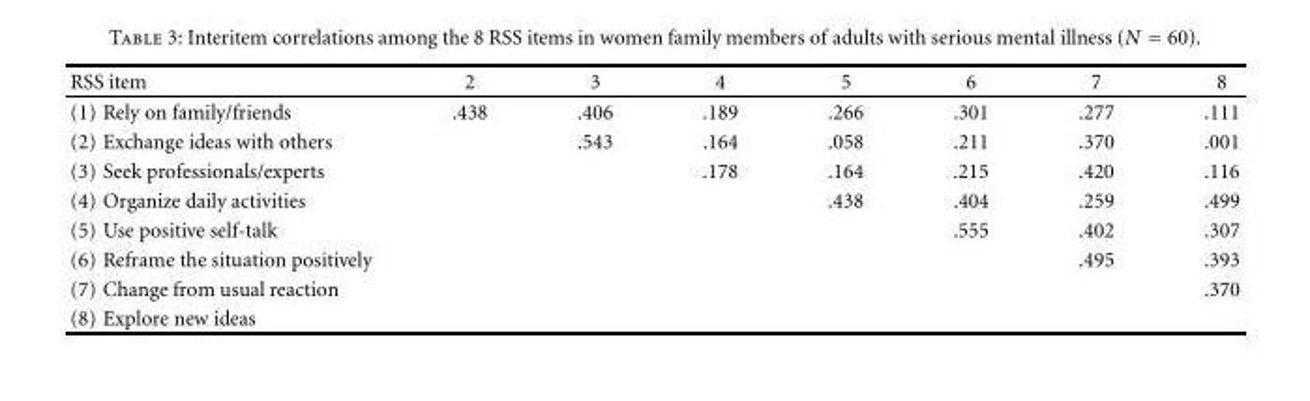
<table><thead><tr><td>RSS item</td><td>2</td><td>3</td><td>4</td><td>5</td><td>6</td><td>7</td><td>8</td></tr></thead><tbody><tr><td>(1) Rely on family/friends</td><td>.438</td><td>.406</td><td>.189</td><td>.266</td><td>.301</td><td>.277</td><td>.111</td></tr><tr><td>(2) Exchange ideas with others</td><td></td><td>.543</td><td>.164</td><td>.058</td><td>.211</td><td>.370</td><td>.001</td></tr><tr><td>(3) Seek professionals/experts</td><td></td><td></td><td>.178</td><td>.164</td><td>.215</td><td>.420</td><td>.116</td></tr><tr><td>(4) Organize daily activities</td><td></td><td></td><td></td><td>.438</td><td>.404</td><td>.259</td><td>.499</td></tr><tr><td>(5) Use positive self-talk</td><td></td><td></td><td></td><td></td><td>.555</td><td>.402</td><td>.307</td></tr><tr><td>(6) Reframe the situation positively</td><td></td><td></td><td></td><td></td><td></td><td>.495</td><td>.393</td></tr><tr><td>(7) Change from usual reaction</td><td></td><td></td><td></td><td></td><td></td><td></td><td>.370</td></tr><tr><td>(8) Explore new ideas</td><td></td><td></td><td></td><td></td><td></td><td></td><td></td></tr></tbody></table>